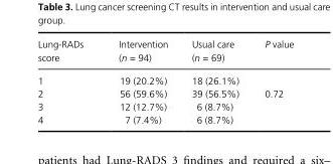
<table><thead><tr><td>Lung- RADs score</td><td>Intervention (n = 94)</td><td>Usual care (n = 69)</td><td>P value</td></tr></thead><tbody><tr><td>1</td><td>19 (20.2%)</td><td>18 (26.1%)</td><td></td></tr><tr><td>2</td><td>56 (59.6%)</td><td>39 (56.5%)</td><td>0.72</td></tr><tr><td>3</td><td>12 (12.7%)</td><td>6 (8.7%)</td><td></td></tr><tr><td>4</td><td>7 (7.4%)</td><td>6 (8.7%)</td><td></td></tr></tbody></table>